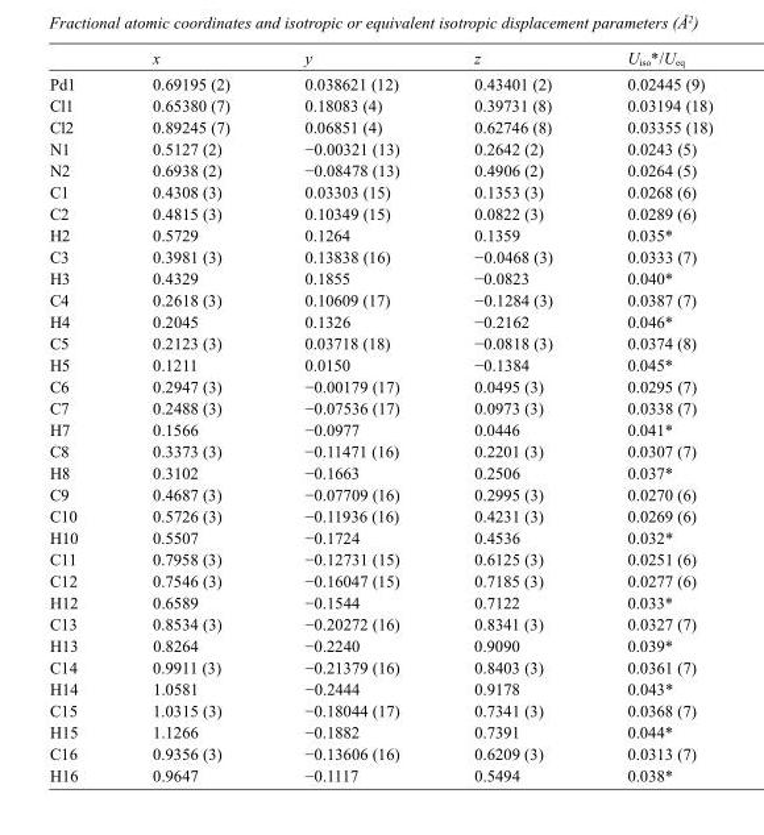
<table><thead><tr><td></td><td>x</td><td>y</td><td>z</td><td>U<sub>iso</sub>*/U<sub>eq</sub></td></tr></thead><tbody><tr><td>Pd1</td><td>0.69195 (2)</td><td>0.038621 (12)</td><td>0.43401 (2)</td><td>0.02445 (9)</td></tr><tr><td>Cl1</td><td>0.65380 (7)</td><td>0.18083 (4)</td><td>0.39731 (8)</td><td>0.03194 (18)</td></tr><tr><td>Cl2</td><td>0.89245 (7)</td><td>0.06851 (4)</td><td>0.62746 (8)</td><td>0.03355 (18)</td></tr><tr><td>N1</td><td>0.5127 (2)</td><td>−0.00321 (13)</td><td>0.2642 (2)</td><td>0.0243 (5)</td></tr><tr><td>N2</td><td>0.6938 (2)</td><td>−0.08478 (13)</td><td>0.4906 (2)</td><td>0.0264 (5)</td></tr><tr><td>C1</td><td>0.4308 (3)</td><td>0.03303 (15)</td><td>0.1353 (3)</td><td>0.0268 (6)</td></tr><tr><td>C2</td><td>0.4815 (3)</td><td>0.10349 (15)</td><td>0.0822 (3)</td><td>0.0289 (6)</td></tr><tr><td>H2</td><td>0.5729</td><td>0.1264</td><td>0.1359</td><td>0.035*</td></tr><tr><td>C3</td><td>0.3981 (3)</td><td>0.13838 (16)</td><td>−0.0468 (3)</td><td>0.0333 (7)</td></tr><tr><td>H3</td><td>0.4329</td><td>0.1855</td><td>−0.0823</td><td>0.040*</td></tr><tr><td>C4</td><td>0.2618 (3)</td><td>0.10609 (17)</td><td>−0.1284 (3)</td><td>0.0387 (7)</td></tr><tr><td>H4</td><td>0.2045</td><td>0.1326</td><td>−0.2162</td><td>0.046*</td></tr><tr><td>C5</td><td>0.2123 (3)</td><td>0.03718 (18)</td><td>−0.0818 (3)</td><td>0.0374 (8)</td></tr><tr><td>H5</td><td>0.1211</td><td>0.0150</td><td>−0.1384</td><td>0.045*</td></tr><tr><td>C6</td><td>0.2947 (3)</td><td>−0.00179 (17)</td><td>0.0495 (3)</td><td>0.0295 (7)</td></tr><tr><td>C7</td><td>0.2488 (3)</td><td>−0.07536 (17)</td><td>0.0973 (3)</td><td>0.0338 (7)</td></tr><tr><td>H7</td><td>0.1566</td><td>−0.0977</td><td>0.0446</td><td>0.041*</td></tr><tr><td>C8</td><td>0.3373 (3)</td><td>−0.11471 (16)</td><td>0.2201 (3)</td><td>0.0307 (7)</td></tr><tr><td>H8</td><td>0.3102</td><td>−0.1663</td><td>0.2506</td><td>0.037*</td></tr><tr><td>C9</td><td>0.4687 (3)</td><td>−0.07709 (16)</td><td>0.2995 (3)</td><td>0.0270 (6)</td></tr><tr><td>C10</td><td>0.5726 (3)</td><td>−0.11936 (16)</td><td>0.4231 (3)</td><td>0.0269 (6)</td></tr><tr><td>H10</td><td>0.5507</td><td>−0.1724</td><td>0.4536</td><td>0.032*</td></tr><tr><td>C11</td><td>0.7958 (3)</td><td>−0.12731 (15)</td><td>0.6125 (3)</td><td>0.0251 (6)</td></tr><tr><td>C12</td><td>0.7546 (3)</td><td>−0.16047 (15)</td><td>0.7185 (3)</td><td>0.0277 (6)</td></tr><tr><td>H12</td><td>0.6589</td><td>−0.1544</td><td>0.7122</td><td>0.033*</td></tr><tr><td>C13</td><td>0.8534 (3)</td><td>−0.20272 (16)</td><td>0.8341 (3)</td><td>0.0327 (7)</td></tr><tr><td>H13</td><td>0.8264</td><td>−0.2240</td><td>0.9090</td><td>0.039*</td></tr><tr><td>C14</td><td>0.9911 (3)</td><td>−0.21379 (16)</td><td>0.8403 (3)</td><td>0.0361 (7)</td></tr><tr><td>H14</td><td>1.0581</td><td>−0.2444</td><td>0.9178</td><td>0.043*</td></tr><tr><td>C15</td><td>1.0315 (3)</td><td>−0.18044 (17)</td><td>0.7341 (3)</td><td>0.0368 (7)</td></tr><tr><td>H15</td><td>1.1266</td><td>−0.1882</td><td>0.7391</td><td>0.044*</td></tr><tr><td>C16</td><td>0.9356 (3)</td><td>−0.13606 (16)</td><td>0.6209 (3)</td><td>0.0313 (7)</td></tr><tr><td>H16</td><td>0.9647</td><td>−0.1117</td><td>0.5494</td><td>0.038*</td></tr></tbody></table>